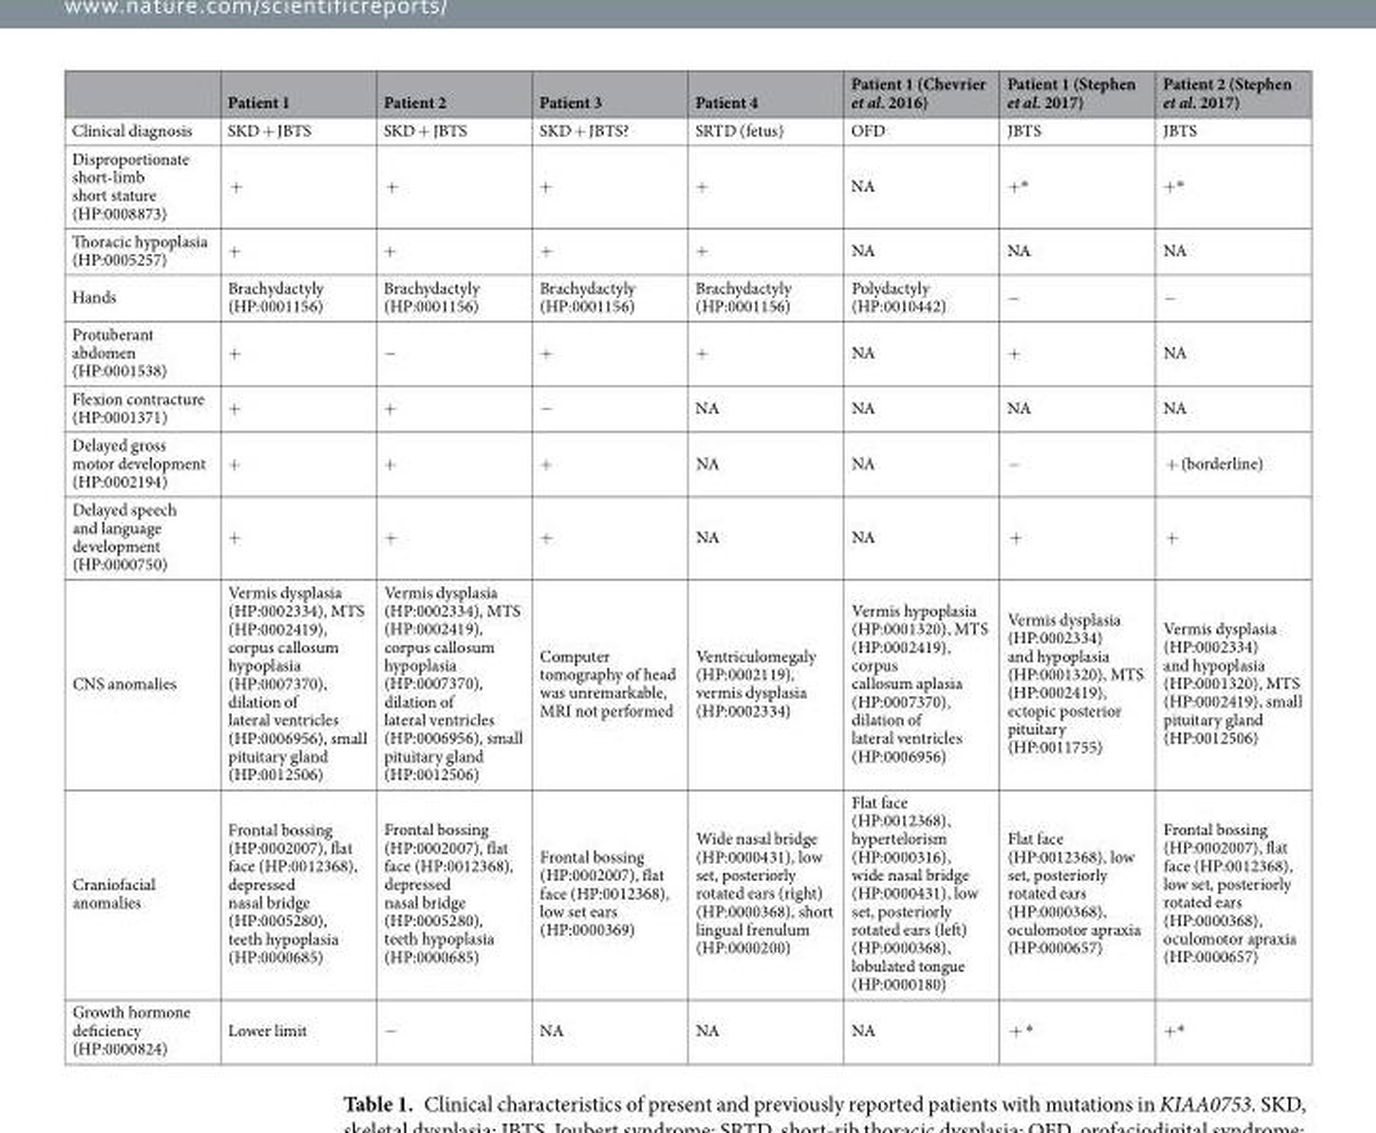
<table><thead><tr><td></td><td>Patient 1</td><td>Patient 2</td><td>Patient 3</td><td>Patient 4</td><td>Patient 1 (Chevrier et al. 2016)</td><td>Patient 1 (Stephen et al. 2017)</td><td>Patient 2 (Stephen et al. 2017)</td></tr></thead><tbody><tr><td>Clinical diagnosis</td><td>SKD + JBTS</td><td>SKD + JBTS</td><td>SKD + JBTS?</td><td>SRTD (fetus)</td><td>OFD</td><td>JBTS</td><td>JBTS</td></tr><tr><td>Disproportionate short-limb short stature (HP:0008873)</td><td>+</td><td>+</td><td>+</td><td>+</td><td>NA</td><td>+*</td><td>+*</td></tr><tr><td>Thoracic hypoplasia (HP:0005257)</td><td>+</td><td>+</td><td>+</td><td>+</td><td>NA</td><td>NA</td><td>NA</td></tr><tr><td>Hands</td><td>Brachydactyly (HP:0001156)</td><td>Brachydactyly (HP:0001156)</td><td>Brachydactyly (HP:0001156)</td><td>Brachydactyly (HP:0001156)</td><td>Polydactyly (HP:0010442)</td><td>−</td><td>−</td></tr><tr><td>Protuberant abdomen (HP:0001538)</td><td>+</td><td>−</td><td>+</td><td>+</td><td>NA</td><td>+</td><td>NA</td></tr><tr><td>Flexion contracture (HP:0001371)</td><td>+</td><td>+</td><td>−</td><td>NA</td><td>NA</td><td>NA</td><td>NA</td></tr><tr><td>Delayed gross motor development (HP:0002194)</td><td>+</td><td>+</td><td>+</td><td>NA</td><td>NA</td><td>−</td><td>+ (borderline)</td></tr><tr><td>Delayed speech and language development (HP:0000750)</td><td>+</td><td>+</td><td>+</td><td>NA</td><td>NA</td><td>+</td><td>+</td></tr><tr><td>CNS anomalies</td><td>Vermis dysplasia (HP:0002334), MTS (HP:0002419), corpus callosum hypoplasia (HP:0007370), dilation of lateral ventricles (HP:0006956), small pituitary gland (HP:0012506)</td><td>Vermis dysplasia (HP:0002334), MTS (HP:0002419), corpus callosum hypoplasia (HP:0007370), dilation of lateral ventricles (HP:0006956), small pituitary gland (HP:0012506)</td><td>Computer tomography of head was unremarkable, MRI not performed</td><td>Ventriculomegaly (HP:0002119), vermis dysplasia (HP:0002334)</td><td>Vermis hypoplasia (HP:0001320), MTS (HP:0002419), corpus callosum aplasia (HP:0007370), dilation of lateral ventricles (HP:0006956)</td><td>Vermis dysplasia (HP:0002334) and hypoplasia (HP:0001320), MTS (HP:0002419), ectopic posterior pituitary (HP:0011755)</td><td>Vermis dysplasia (HP:0002334) and hypoplasia (HP:0001320), MTS (HP:0002419), small pituitary gland (HP:0012506)</td></tr><tr><td>Craniofacial anomalies</td><td>Frontal bossing (HP:0002007), flat face (HP:0012368), depressed nasal bridge (HP:0005280), teeth hypoplasia (HP:0000685)</td><td>Frontal bossing (HP:0002007), flat face (HP:0012368), depressed nasal bridge (HP:0005280), teeth hypoplasia (HP:0000685)</td><td>Frontal bossing (HP:0002007), flat face (HP:0012368), low set ears (HP:0000369)</td><td>Wide nasal bridge (HP:0000431), low set, posteriorly rotated ears (right) (HP:0000368), short lingual frenulum (HP:0000200)</td><td>Flat face (HP:0012368), hypertelorism (HP:0000316), wide nasal bridge (HP:0000431), low set, posteriorly rotated ears (left) (HP:0000368), lobulated tongue (HP:0000180)</td><td>Flat face (HP:0012368), low set, posteriorly rotated ears (HP:0000368), oculomotor apraxia (HP:0000657)</td><td>Frontal bossing (HP:0002007), flat face (HP:0012368), low set, posteriorly rotated ears (HP:0000368), oculomotor apraxia (HP:0000657)</td></tr><tr><td>Growth hormone deficiency (HP:0000824)</td><td>Lower limit</td><td>−</td><td>NA</td><td>NA</td><td>NA</td><td>+ *</td><td>+*</td></tr></tbody></table>